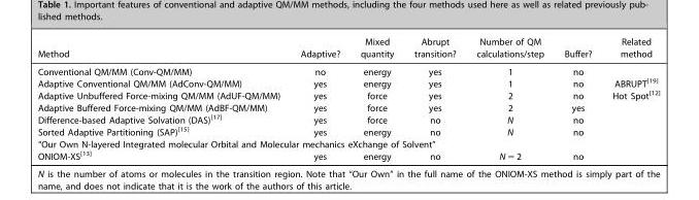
<table><thead><tr><td>Method</td><td>Adaptive?</td><td>Mixed quantity</td><td>Abrupt transition?</td><td>Number of QM calculations/step</td><td>Buffer?</td><td>Related method</td></tr></thead><tbody><tr><td>Conventional QM/MM (Conv-QM/MM)</td><td>no</td><td>energy</td><td>yes</td><td>1</td><td>no</td><td></td></tr><tr><td>Adaptive Conventional QM/MM (AdConv-QM/MM)</td><td>yes</td><td>energy</td><td>yes</td><td>1</td><td>no</td><td>ABRUPT[19]</td></tr><tr><td>Adaptive Unbuffered Force-mixing QM/MM (AdUF-QM/MM)</td><td>yes</td><td>force</td><td>yes</td><td>2</td><td>no</td><td>Hot Spot[12]</td></tr><tr><td>Adaptive Buffered Force-mixing QM/MM (AdBF-QM/MM)</td><td>yes</td><td>force</td><td>yes</td><td>2</td><td>yes</td><td></td></tr><tr><td>Difference-based Adaptive Solvation (DAS)[17]</td><td>yes</td><td>force</td><td>no</td><td>N</td><td>no</td><td></td></tr><tr><td>Sorted Adaptive Partitioning (SAP)[15]</td><td>yes</td><td>energy</td><td>no</td><td>N</td><td>no</td><td></td></tr><tr><td colspan="7">“Our Own N-layered Integrated molecular Orbital and Molecular mechanics eXchange of Solvent”</td></tr><tr><td>ONIOM-XS[13]</td><td>yes</td><td>energy</td><td>no</td><td>N = 2</td><td>no</td><td></td></tr></tbody></table>